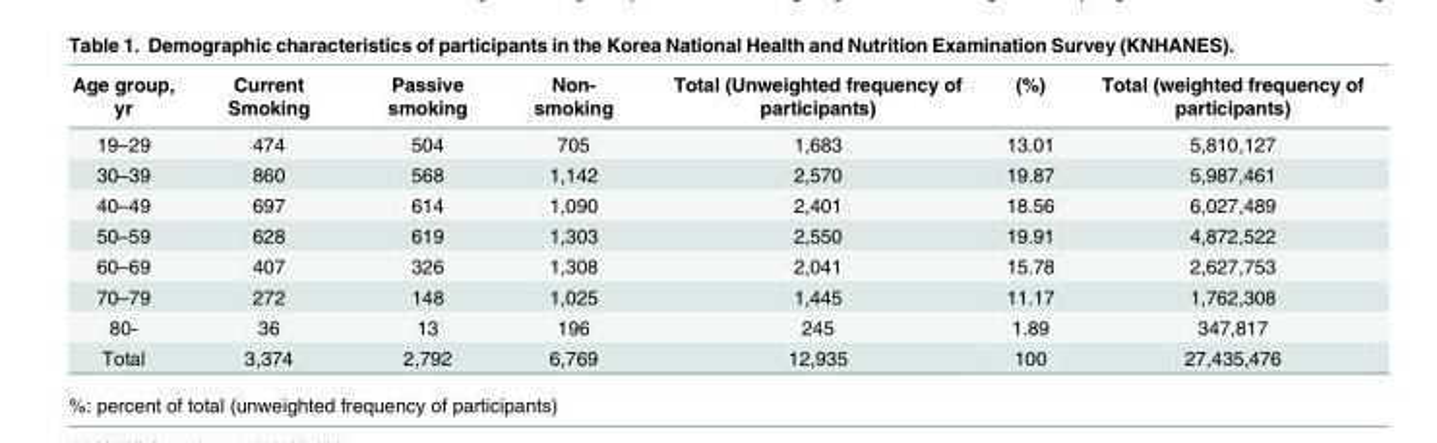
<table><thead><tr><td>Age group, yr</td><td>Current Smoking</td><td>Passive smoking</td><td>Non- smoking</td><td>Total (Unweighted frequency of participants)</td><td>(%)</td><td>Total (weighted frequency of participants)</td></tr></thead><tbody><tr><td>19–29</td><td>474</td><td>504</td><td>705</td><td>1,683</td><td>13.01</td><td>5,810,127</td></tr><tr><td>30–39</td><td>860</td><td>568</td><td>1,142</td><td>2,570</td><td>19.87</td><td>5,987,461</td></tr><tr><td>40–49</td><td>697</td><td>614</td><td>1,090</td><td>2,401</td><td>18.56</td><td>6,027,489</td></tr><tr><td>50–59</td><td>628</td><td>619</td><td>1,303</td><td>2,550</td><td>19.91</td><td>4,872,522</td></tr><tr><td>60–69</td><td>407</td><td>326</td><td>1,308</td><td>2,041</td><td>15.78</td><td>2,627,753</td></tr><tr><td>70–79</td><td>272</td><td>148</td><td>1,025</td><td>1,445</td><td>11.17</td><td>1,762,308</td></tr><tr><td>80-</td><td>36</td><td>13</td><td>196</td><td>245</td><td>1.89</td><td>347,817</td></tr><tr><td>Total</td><td>3,374</td><td>2,792</td><td>6,769</td><td>12,935</td><td>100</td><td>27,435,476</td></tr></tbody></table>